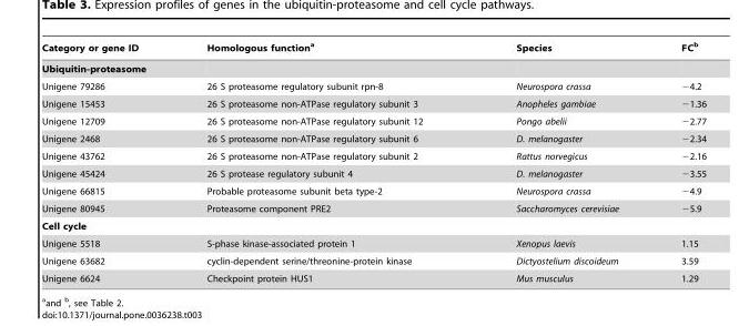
<table><thead><tr><td>Category or gene ID</td><td>Homologous function<sup>a</sup></td><td>Species</td><td>FC<sup>b</sup></td></tr></thead><tbody><tr><td colspan="4">Ubiquitin-proteasome</td></tr><tr><td>Unigene 79286</td><td>26 S proteasome regulatory subunit rpn-8</td><td>Neurospora crassa</td><td>−4.2</td></tr><tr><td>Unigene 15453</td><td>26 S proteasome non-ATPase regulatory subunit 3</td><td>Anopheles gambiae</td><td>−1.36</td></tr><tr><td>Unigene 12709</td><td>26 S proteasome non-ATPase regulatory subunit 12</td><td>Pongo abelii</td><td>−2.77</td></tr><tr><td>Unigene 2468</td><td>26 S proteasome non-ATPase regulatory subunit 6</td><td>D. melanogaster</td><td>−2.34</td></tr><tr><td>Unigene 43762</td><td>26 S proteasome non-ATPase regulatory subunit 2</td><td>Rattus norvegicus</td><td>−2.16</td></tr><tr><td>Unigene 45424</td><td>26 S protease regulatory subunit 4</td><td>D. melanogaster</td><td>−3.55</td></tr><tr><td>Unigene 66815</td><td>Probable proteasome subunit beta type-2</td><td>Neurospora crassa</td><td>−4.9</td></tr><tr><td>Unigene 80945</td><td>Proteasome component PRE2</td><td>Saccharomyces cerevisiae</td><td>−5.9</td></tr><tr><td colspan="4">Cell cycle</td></tr><tr><td>Unigene 5518</td><td>S-phase kinase-associated protein 1</td><td>Xenopus laevis</td><td>1.15</td></tr><tr><td>Unigene 63682</td><td>cyclin-dependent serine/threonine-protein kinase</td><td>Dictyostelium discoideum</td><td>3.59</td></tr><tr><td>Unigene 6624</td><td>Checkpoint protein HUS1</td><td>Mus musculus</td><td>1.29</td></tr></tbody></table>